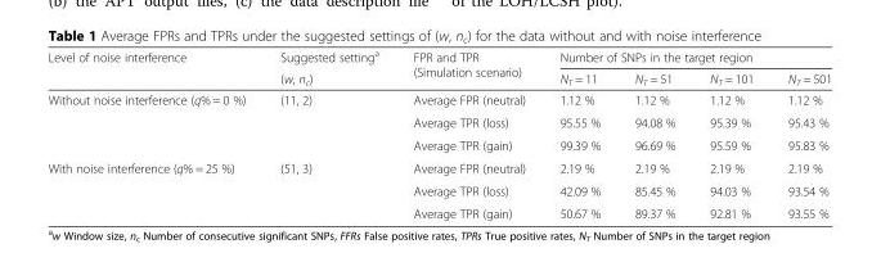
<table><thead><tr><td rowspan="2">Level of noise interference</td><td rowspan="2">Suggested setting<sup>a</sup> (w, n<sub>c</sub>)</td><td rowspan="2">FPR and TPR (Simulation scenario)</td><td colspan="4">Number of SNPs in the target region</td></tr><tr><td>N<sub>T</sub> = 11</td><td>N<sub>T</sub> = 51</td><td>N<sub>T</sub> = 101</td><td>N<sub>T</sub> = 501</td></tr></thead><tbody><tr><td rowspan="3">Without noise interference (q% = 0 %)</td><td>(11, 2)</td><td>Average FPR (neutral)</td><td>1.12 %</td><td>1.12 %</td><td>1.12 %</td><td>1.12 %</td></tr><tr><td></td><td>Average TPR (loss)</td><td>95.55 %</td><td>94.08 %</td><td>95.39 %</td><td>95.43 %</td></tr><tr><td></td><td>Average TPR (gain)</td><td>99.39 %</td><td>96.69 %</td><td>95.59 %</td><td>95.83 %</td></tr><tr><td rowspan="3">With noise interference (q% = 25 %)</td><td>(51, 3)</td><td>Average FPR (neutral)</td><td>2.19 %</td><td>2.19 %</td><td>2.19 %</td><td>2.19 %</td></tr><tr><td></td><td>Average TPR (loss)</td><td>42.09 %</td><td>85.45 %</td><td>94.03 %</td><td>93.54 %</td></tr><tr><td></td><td>Average TPR (gain)</td><td>50.67 %</td><td>89.37 %</td><td>92.81 %</td><td>93.55 %</td></tr></tbody></table>